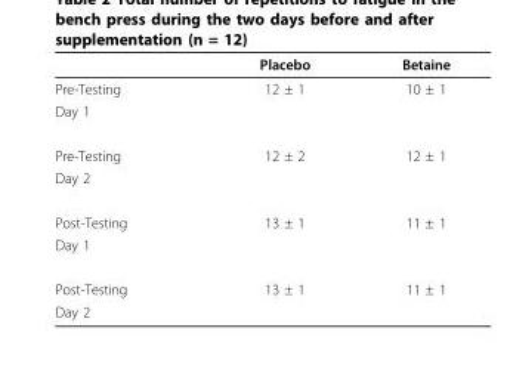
<table><thead><tr><td></td><td>Placebo</td><td>Betaine</td></tr></thead><tbody><tr><td>Pre-Testing</td><td>12 ± 1</td><td>10 ± 1</td></tr><tr><td colspan="3">Day 1</td></tr><tr><td>Pre-Testing</td><td>12 ± 2</td><td>12 ± 1</td></tr><tr><td colspan="3">Day 2</td></tr><tr><td>Post-Testing</td><td>13 ± 1</td><td>11 ± 1</td></tr><tr><td colspan="3">Day 1</td></tr><tr><td>Post-Testing</td><td>13 ± 1</td><td>11 ± 1</td></tr><tr><td>Day 2</td><td></td><td></td></tr></tbody></table>